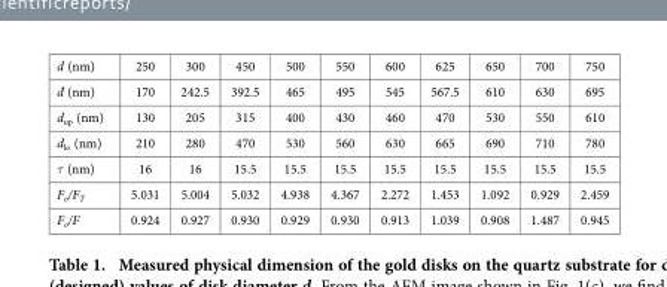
<table><tbody><tr><td>d (nm)</td><td>250</td><td>300</td><td>450</td><td>500</td><td>550</td><td>600</td><td>625</td><td>650</td><td>700</td><td>750</td></tr><tr><td>đ (nm)</td><td>170</td><td>242.5</td><td>392.5</td><td>465</td><td>495</td><td>545</td><td>567.5</td><td>610</td><td>630</td><td>695</td></tr><tr><td>d<sub>up</sub> (nm)</td><td>130</td><td>205</td><td>315</td><td>400</td><td>430</td><td>460</td><td>470</td><td>530</td><td>550</td><td>610</td></tr><tr><td>d<sub>lo</sub> (nm)</td><td>210</td><td>280</td><td>470</td><td>530</td><td>560</td><td>630</td><td>665</td><td>690</td><td>710</td><td>780</td></tr><tr><td>τ (nm)</td><td>16</td><td>16</td><td>15.5</td><td>15.5</td><td>15.5</td><td>15.5</td><td>15.5</td><td>15.5</td><td>15.5</td><td>15.5</td></tr><tr><td>F<sub>o</sub>/F<sub>T</sub></td><td>5.031</td><td>5.004</td><td>5.032</td><td>4.938</td><td>4.367</td><td>2.272</td><td>1.453</td><td>1.092</td><td>0.929</td><td>2.459</td></tr><tr><td>F<sub>o</sub>/F</td><td>0.924</td><td>0.927</td><td>0.930</td><td>0.929</td><td>0.930</td><td>0.913</td><td>1.039</td><td>0.908</td><td>1.487</td><td>0.945</td></tr></tbody></table>